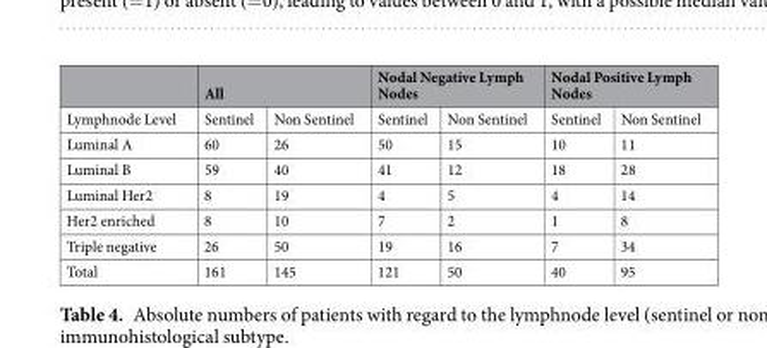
<table><thead><tr><td rowspan="2">Lymphnode Level</td><td colspan="2">All</td><td colspan="2">Nodal Negative Lymph Nodes</td><td colspan="2">Nodal Positive Lymph Nodes</td></tr><tr><td>Sentinel</td><td>Non Sentinel</td><td>Sentinel</td><td>Non Sentinel</td><td>Sentinel</td><td>Non Sentinel</td></tr></thead><tbody><tr><td>Luminal A</td><td>60</td><td>26</td><td>50</td><td>15</td><td>10</td><td>11</td></tr><tr><td>Luminal B</td><td>59</td><td>40</td><td>41</td><td>12</td><td>18</td><td>28</td></tr><tr><td>Luminal Her2</td><td>8</td><td>19</td><td>4</td><td>5</td><td>4</td><td>14</td></tr><tr><td>Her2 enriched</td><td>8</td><td>10</td><td>7</td><td>2</td><td>1</td><td>8</td></tr><tr><td>Triple negative</td><td>26</td><td>50</td><td>19</td><td>16</td><td>7</td><td>34</td></tr><tr><td>Total</td><td>161</td><td>145</td><td>121</td><td>50</td><td>40</td><td>95</td></tr></tbody></table>